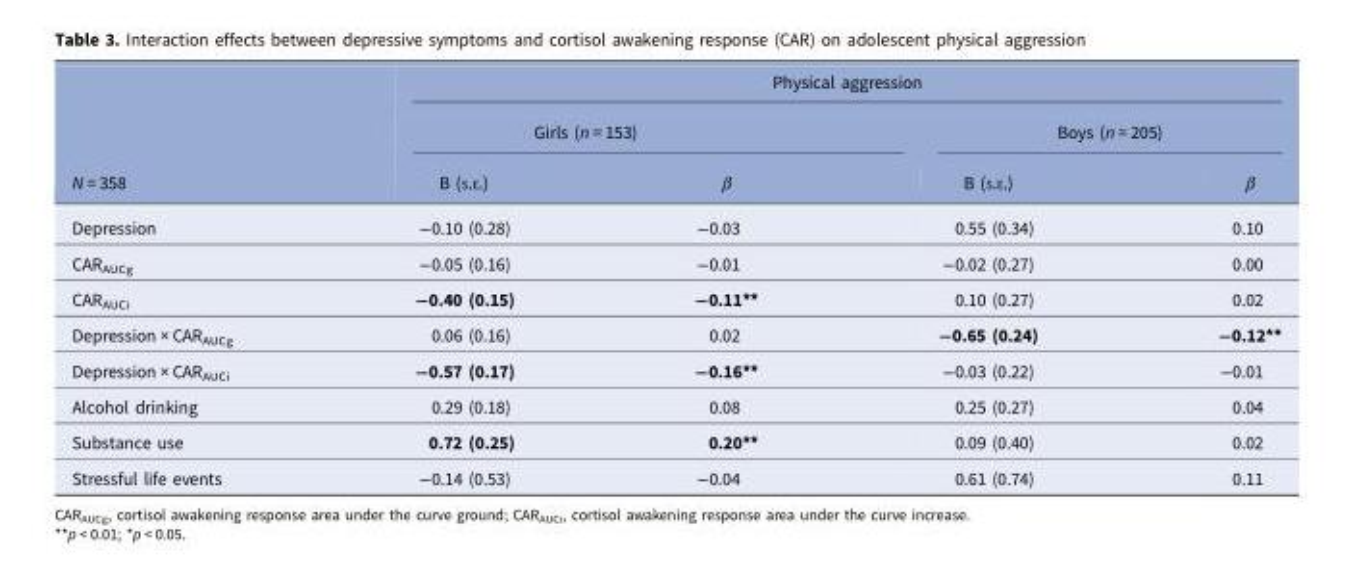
<table><thead><tr><td rowspan="3">N = 358</td><td colspan="4">Physical aggression</td></tr><tr><td colspan="2">Girls (n = 153)</td><td colspan="2">Boys (n = 205)</td></tr><tr><td>B (S.E.)</td><td>β</td><td>B (S.E.)</td><td>β</td></tr></thead><tbody><tr><td>Depression</td><td>−0.10 (0.28)</td><td>−0.03</td><td>0.55 (0.34)</td><td>0.10</td></tr><tr><td>CAR<sub>AUCg</sub></td><td>−0.05 (0.16)</td><td>−0.01</td><td>−0.02 (0.27)</td><td>0.00</td></tr><tr><td>CAR<sub>AUCi</sub></td><td>−0.40 (0.15)</td><td>−0.11**</td><td>0.10 (0.27)</td><td>0.02</td></tr><tr><td>Depression × CAR<sub>AUCg</sub></td><td>0.06 (0.16)</td><td>0.02</td><td>−0.65 (0.24)</td><td>−0.12**</td></tr><tr><td>Depression × CAR<sub>AUCi</sub></td><td>−0.57 (0.17)</td><td>−0.16**</td><td>−0.03 (0.22)</td><td>−0.01</td></tr><tr><td>Alcohol drinking</td><td>0.29 (0.18)</td><td>0.08</td><td>0.25 (0.27)</td><td>0.04</td></tr><tr><td>Substance use</td><td>0.72 (0.25)</td><td>0.20**</td><td>0.09 (0.40)</td><td>0.02</td></tr><tr><td>Stressful life events</td><td>−0.14 (0.53)</td><td>−0.04</td><td>0.61 (0.74)</td><td>0.11</td></tr></tbody></table>